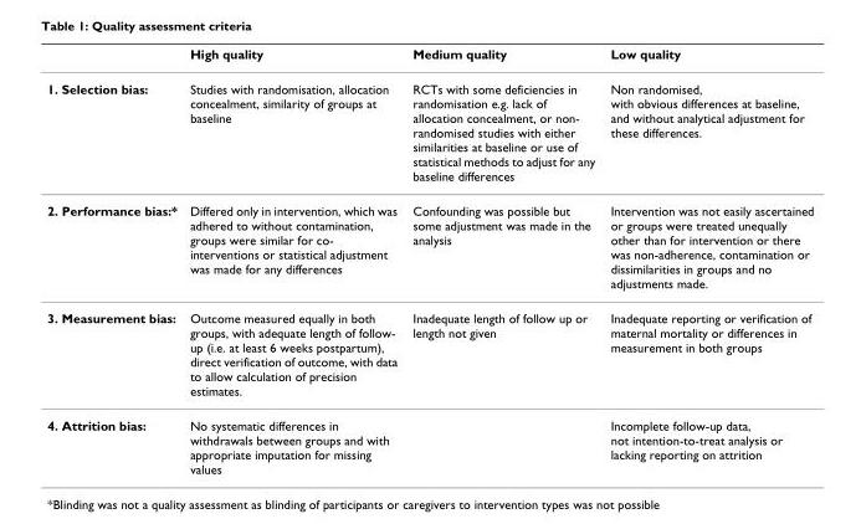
<table><thead><tr><td></td><td>High quality</td><td>Medium quality</td><td>Low quality</td></tr></thead><tbody><tr><td>1. Selection bias:</td><td>Studies with randomisation, allocation concealment, similarity of groups at baseline</td><td>RCTs with some deficiencies in randomisation e.g. lack of allocation concealment, or non- randomised studies with either similarities at baseline or use of statistical methods to adjust for any baseline differences</td><td>Non randomised, with obvious differences at baseline, and without analytical adjustment for these differences.</td></tr><tr><td>2. Performance bias:*</td><td>Differed only in intervention, which was adhered to without contamination, groups were similar for co- interventions or statistical adjustment was made for any differences</td><td>Confounding was possible but some adjustment was made in the analysis</td><td>Intervention was not easily ascertained or groups were treated unequally other than for intervention or there was non-adherence, contamination or dissimilarities in groups and no adjustments made.</td></tr><tr><td>3. Measurement bias:</td><td>Outcome measured equally in both groups, with adequate length of follow- up (i.e. at least 6 weeks postpartum), direct verification of outcome, with data to allow calculation of precision estimates.</td><td>Inadequate length of follow up or length not given</td><td>Inadequate reporting or verification of maternal mortality or differences in measurement in both groups</td></tr><tr><td>4. Attrition bias:</td><td>No systematic differences in withdrawals between groups and with appropriate imputation for missing values</td><td></td><td>Incomplete follow-up data, not intention-to-treat analysis or lacking reporting on attrition</td></tr></tbody></table>